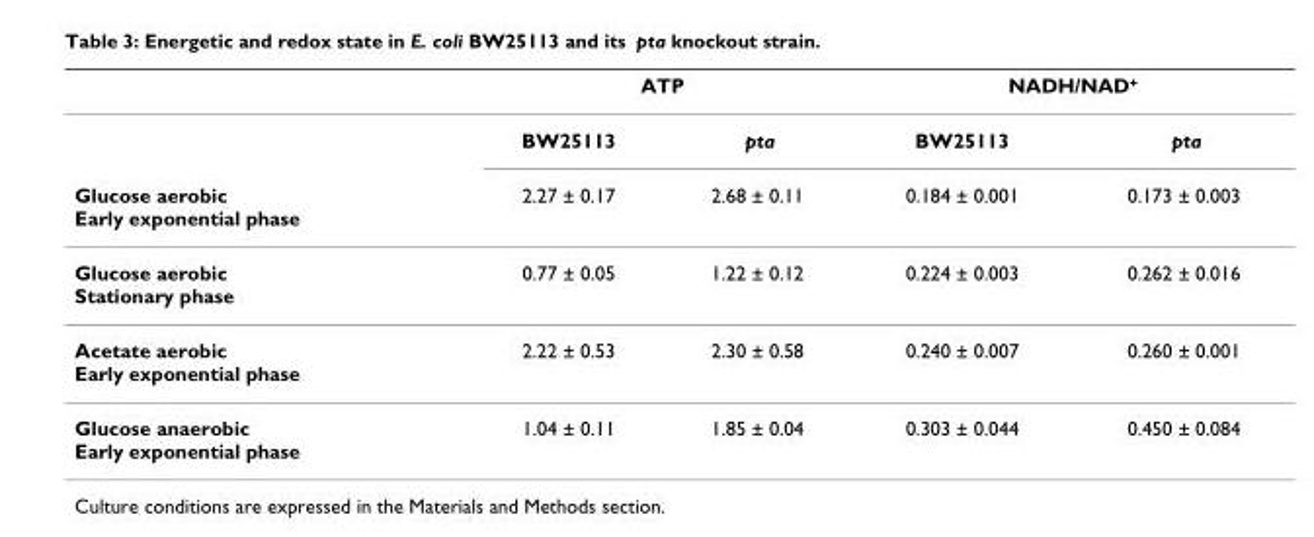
<table><thead><tr><td rowspan="2"></td><td colspan="2">ATP</td><td colspan="2">NADH/NAD<sup>+</sup></td></tr><tr><td>BW25113</td><td>pta</td><td>BW25113</td><td>pta</td></tr></thead><tbody><tr><td>Glucose aerobic Early exponential phase</td><td>2.27 ± 0.17</td><td>2.68 ± 0.11</td><td>0.184 ± 0.001</td><td>0.173 ± 0.003</td></tr><tr><td>Glucose aerobic Stationary phase</td><td>0.77 ± 0.05</td><td>1.22 ± 0.12</td><td>0.224 ± 0.003</td><td>0.262 ± 0.016</td></tr><tr><td>Acetate aerobic Early exponential phase</td><td>2.22 ± 0.53</td><td>2.30 ± 0.58</td><td>0.240 ± 0.007</td><td>0.260 ± 0.001</td></tr><tr><td>Glucose anaerobic Early exponential phase</td><td>1.04 ± 0.11</td><td>1.85 ± 0.04</td><td>0.303 ± 0.044</td><td>0.450 ± 0.084</td></tr></tbody></table>